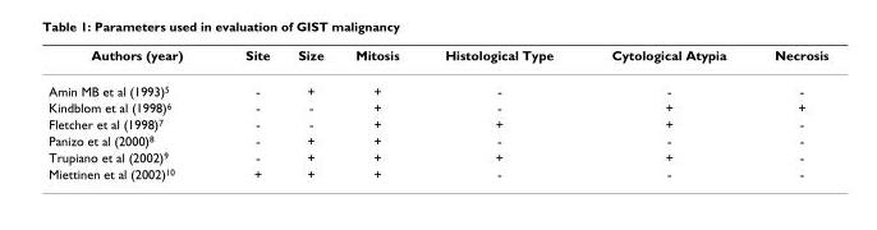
<table><thead><tr><td>Authors (year)</td><td>Site</td><td>Size</td><td>Mitosis</td><td>Histological Type</td><td>Cytological Atypia</td><td>Necrosis</td></tr></thead><tbody><tr><td>Amin MB et al (1993)<sup>5</sup></td><td>-</td><td>+</td><td>+</td><td>-</td><td>-</td><td>-</td></tr><tr><td>Kindblom et al (1998)<sup>6</sup></td><td>-</td><td>-</td><td>+</td><td>-</td><td>+</td><td>+</td></tr><tr><td>Fletcher et al (1998)<sup>7</sup></td><td>-</td><td>-</td><td>+</td><td>+</td><td>+</td><td>-</td></tr><tr><td>Panizo et al (2000)<sup>8</sup></td><td>-</td><td>+</td><td>+</td><td>-</td><td>-</td><td>-</td></tr><tr><td>Trupiano et al (2002)<sup>9</sup></td><td>-</td><td>+</td><td>+</td><td>+</td><td>+</td><td>-</td></tr><tr><td>Miettinen et al (2002)<sup>10</sup></td><td>+</td><td>+</td><td>+</td><td>-</td><td>-</td><td>-</td></tr></tbody></table>